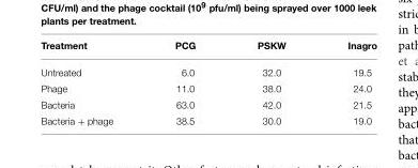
<table><thead><tr><td>Treatment</td><td>PCG</td><td>PSKW</td><td>Inagro</td></tr></thead><tbody><tr><td>Untreated</td><td>6.0</td><td>32.0</td><td>19.5</td></tr><tr><td>Phage</td><td>11.0</td><td>38.0</td><td>24.0</td></tr><tr><td>Bacteria</td><td>63.0</td><td>42.0</td><td>21.5</td></tr><tr><td>Bacteria + phage</td><td>38.5</td><td>30.0</td><td>19.0</td></tr></tbody></table>